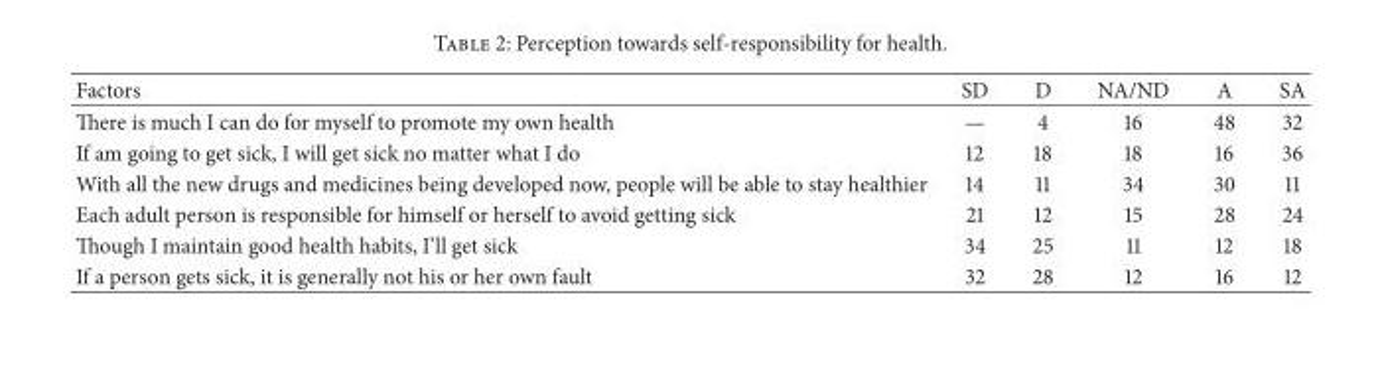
<table><thead><tr><td>Factors</td><td>SD</td><td>D</td><td>NA/ND</td><td>A</td><td>SA</td></tr></thead><tbody><tr><td>There is much I can do for myself to promote my own health</td><td>—</td><td>4</td><td>16</td><td>48</td><td>32</td></tr><tr><td>If am going to get sick, I will get sick no matter what I do</td><td>12</td><td>18</td><td>18</td><td>16</td><td>36</td></tr><tr><td>With all the new drugs and medicines being developed now, people will be able to stay healthier</td><td>14</td><td>11</td><td>34</td><td>30</td><td>11</td></tr><tr><td>Each adult person is responsible for himself or herself to avoid getting sick</td><td>21</td><td>12</td><td>15</td><td>28</td><td>24</td></tr><tr><td>Though I maintain good health habits, I’ll get sick</td><td>34</td><td>25</td><td>11</td><td>12</td><td>18</td></tr><tr><td>If a person gets sick, it is generally not his or her own fault</td><td>32</td><td>28</td><td>12</td><td>16</td><td>12</td></tr></tbody></table>